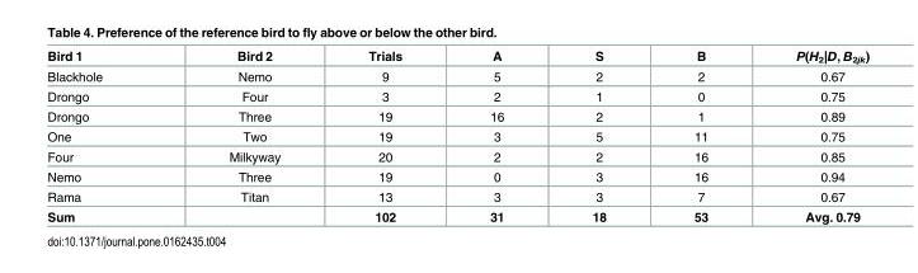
<table><thead><tr><td>Bird 1</td><td>Bird 2</td><td>Trials</td><td>A</td><td>S</td><td>B</td><td>P(H<sub>2</sub>|D, B<sub>2jk</sub>)</td></tr></thead><tbody><tr><td>Blackhole</td><td>Nemo</td><td>9</td><td>5</td><td>2</td><td>2</td><td>0.67</td></tr><tr><td>Drongo</td><td>Four</td><td>3</td><td>2</td><td>1</td><td>0</td><td>0.75</td></tr><tr><td>Drongo</td><td>Three</td><td>19</td><td>16</td><td>2</td><td>1</td><td>0.89</td></tr><tr><td>One</td><td>Two</td><td>19</td><td>3</td><td>5</td><td>11</td><td>0.75</td></tr><tr><td>Four</td><td>Milkyway</td><td>20</td><td>2</td><td>2</td><td>16</td><td>0.85</td></tr><tr><td>Nemo</td><td>Three</td><td>19</td><td>0</td><td>3</td><td>16</td><td>0.94</td></tr><tr><td>Rama</td><td>Titan</td><td>13</td><td>3</td><td>3</td><td>7</td><td>0.67</td></tr><tr><td>Sum</td><td></td><td>102</td><td>31</td><td>18</td><td>53</td><td>Avg. 0.79</td></tr></tbody></table>